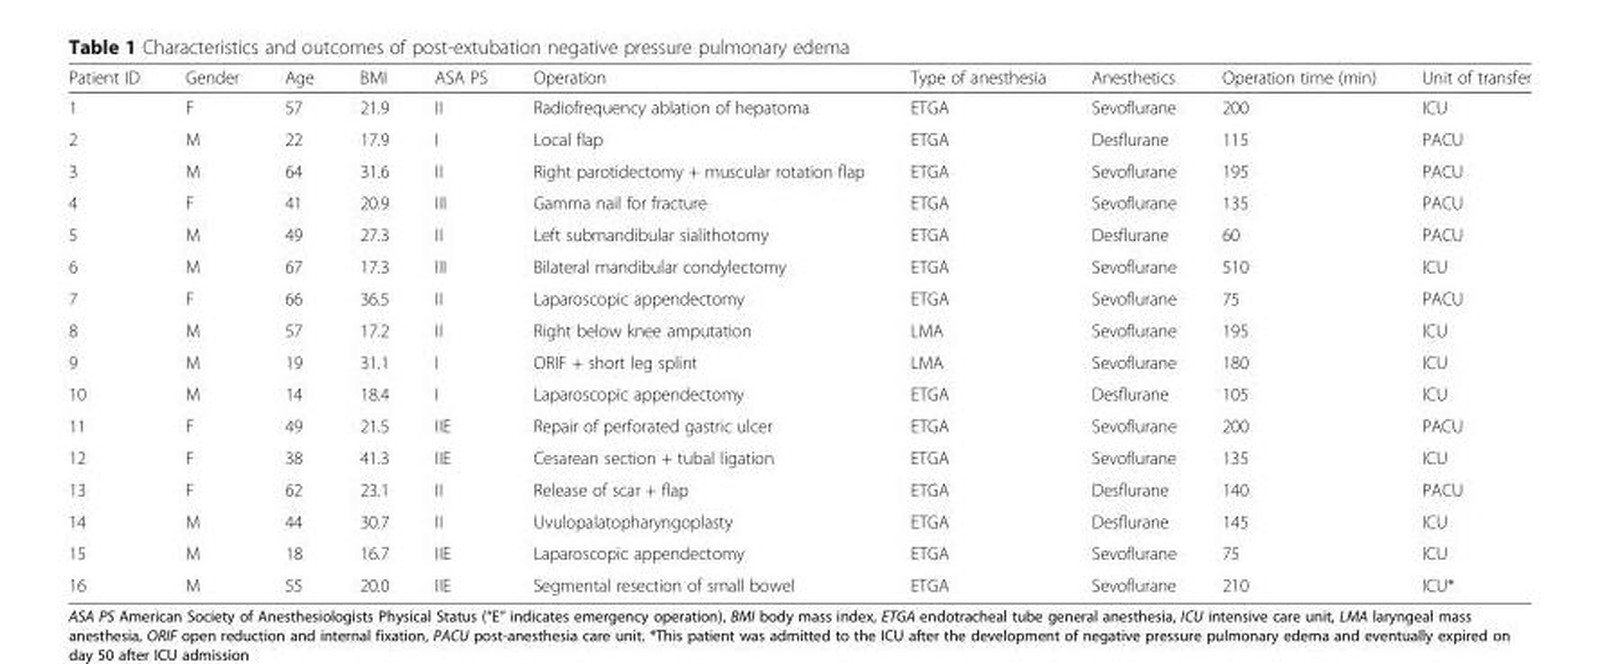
<table><thead><tr><td>Patient ID</td><td>Gender</td><td>Age</td><td>BMI</td><td>ASA PS</td><td>Operation</td><td>Type of anesthesia</td><td>Anesthetics</td><td>Operation time (min)</td><td>Unit of transfer</td></tr></thead><tbody><tr><td>1</td><td>F</td><td>57</td><td>21.9</td><td>II</td><td>Radiofrequency ablation of hepatoma</td><td>ETGA</td><td>Sevoflurane</td><td>200</td><td>ICU</td></tr><tr><td>2</td><td>M</td><td>22</td><td>17.9</td><td>I</td><td>Local flap</td><td>ETGA</td><td>Desflurane</td><td>115</td><td>PACU</td></tr><tr><td>3</td><td>M</td><td>64</td><td>31.6</td><td>II</td><td>Right parotidectomy + muscular rotation flap</td><td>ETGA</td><td>Sevoflurane</td><td>195</td><td>PACU</td></tr><tr><td>4</td><td>F</td><td>41</td><td>20.9</td><td>III</td><td>Gamma nail for fracture</td><td>ETGA</td><td>Sevoflurane</td><td>135</td><td>PACU</td></tr><tr><td>5</td><td>M</td><td>49</td><td>27.3</td><td>II</td><td>Left submandibular sialithotomy</td><td>ETGA</td><td>Desflurane</td><td>60</td><td>PACU</td></tr><tr><td>6</td><td>M</td><td>67</td><td>17.3</td><td>III</td><td>Bilateral mandibular condylectomy</td><td>ETGA</td><td>Sevoflurane</td><td>510</td><td>ICU</td></tr><tr><td>7</td><td>F</td><td>66</td><td>36.5</td><td>II</td><td>Laparoscopic appendectomy</td><td>ETGA</td><td>Sevoflurane</td><td>75</td><td>PACU</td></tr><tr><td>8</td><td>M</td><td>57</td><td>17.2</td><td>II</td><td>Right below knee amputation</td><td>LMA</td><td>Sevoflurane</td><td>195</td><td>ICU</td></tr><tr><td>9</td><td>M</td><td>19</td><td>31.1</td><td>I</td><td>ORIF + short leg splint</td><td>LMA</td><td>Sevoflurane</td><td>180</td><td>ICU</td></tr><tr><td>10</td><td>M</td><td>14</td><td>18.4</td><td>I</td><td>Laparoscopic appendectomy</td><td>ETGA</td><td>Desflurane</td><td>105</td><td>ICU</td></tr><tr><td>11</td><td>F</td><td>49</td><td>21.5</td><td>IIE</td><td>Repair of perforated gastric ulcer</td><td>ETGA</td><td>Sevoflurane</td><td>200</td><td>PACU</td></tr><tr><td>12</td><td>F</td><td>38</td><td>41.3</td><td>IIE</td><td>Cesarean section + tubal ligation</td><td>ETGA</td><td>Sevoflurane</td><td>135</td><td>ICU</td></tr><tr><td>13</td><td>F</td><td>62</td><td>23.1</td><td>II</td><td>Release of scar + flap</td><td>ETGA</td><td>Desflurane</td><td>140</td><td>PACU</td></tr><tr><td>14</td><td>M</td><td>44</td><td>30.7</td><td>II</td><td>Uvulopalatopharyngoplasty</td><td>ETGA</td><td>Desflurane</td><td>145</td><td>ICU</td></tr><tr><td>15</td><td>M</td><td>18</td><td>16.7</td><td>IIE</td><td>Laparoscopic appendectomy</td><td>ETGA</td><td>Sevoflurane</td><td>75</td><td>ICU</td></tr><tr><td>16</td><td>M</td><td>55</td><td>20.0</td><td>IIE</td><td>Segmental resection of small bowel</td><td>ETGA</td><td>Sevoflurane</td><td>210</td><td>ICU*</td></tr></tbody></table>